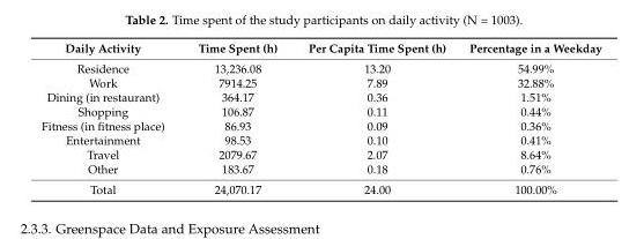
<table><thead><tr><td>Daily Activity</td><td>Time Spent (h)</td><td>Per Capita Time Spent (h)</td><td>Percentage in a Weekday</td></tr></thead><tbody><tr><td>Residence</td><td>13,236.08</td><td>13.20</td><td>54.99%</td></tr><tr><td>Work</td><td>7914.25</td><td>7.89</td><td>32.88%</td></tr><tr><td>Dining (in restaurant)</td><td>364.17</td><td>0.36</td><td>1.51%</td></tr><tr><td>Shopping</td><td>106.87</td><td>0.11</td><td>0.44%</td></tr><tr><td>Fitness (in fitness place)</td><td>86.93</td><td>0.09</td><td>0.36%</td></tr><tr><td>Entertainment</td><td>98.53</td><td>0.10</td><td>0.41%</td></tr><tr><td>Travel</td><td>2079.67</td><td>2.07</td><td>8.64%</td></tr><tr><td>Other</td><td>183.67</td><td>0.18</td><td>0.76%</td></tr><tr><td>Total</td><td>24,070.17</td><td>24.00</td><td>100.00%</td></tr></tbody></table>